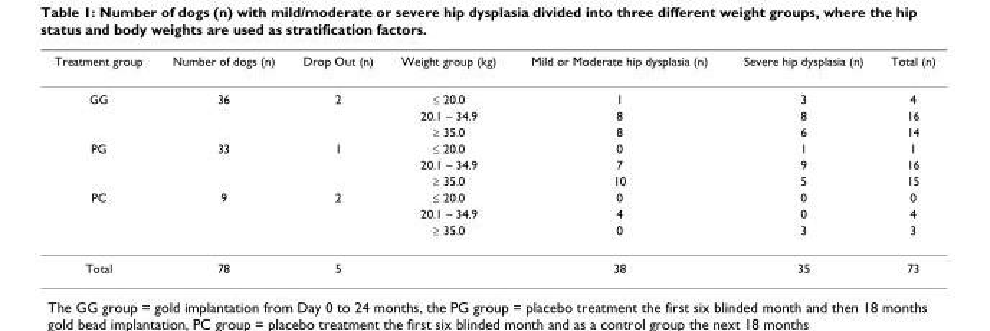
<table><thead><tr><td>Treatment group</td><td>Number of dogs (n)</td><td>Drop Out (n)</td><td>Weight group (kg)</td><td>Mild or Moderate hip dysplasia (n)</td><td>Severe hip dysplasia (n)</td><td>Total (n)</td></tr></thead><tbody><tr><td rowspan="3">GG</td><td>36</td><td>2</td><td>≤ 20.0</td><td>1</td><td>3</td><td>4</td></tr><tr><td></td><td></td><td>20.1 – 34.9</td><td>8</td><td>8</td><td>16</td></tr><tr><td></td><td></td><td>≥ 35.0</td><td>8</td><td>6</td><td>14</td></tr><tr><td rowspan="3">PG</td><td>33</td><td>1</td><td>≤ 20.0</td><td>0</td><td>1</td><td>1</td></tr><tr><td></td><td></td><td>20.1 – 34.9</td><td>7</td><td>9</td><td>16</td></tr><tr><td></td><td></td><td>≥ 35.0</td><td>10</td><td>5</td><td>15</td></tr><tr><td rowspan="3">PC</td><td>9</td><td>2</td><td>≤ 20.0</td><td>0</td><td>0</td><td>0</td></tr><tr><td></td><td></td><td>20.1 – 34.9</td><td>4</td><td>0</td><td>4</td></tr><tr><td></td><td></td><td>≥ 35.0</td><td>0</td><td>3</td><td>3</td></tr><tr><td>Total</td><td>78</td><td>5</td><td></td><td>38</td><td>35</td><td>73</td></tr></tbody></table>